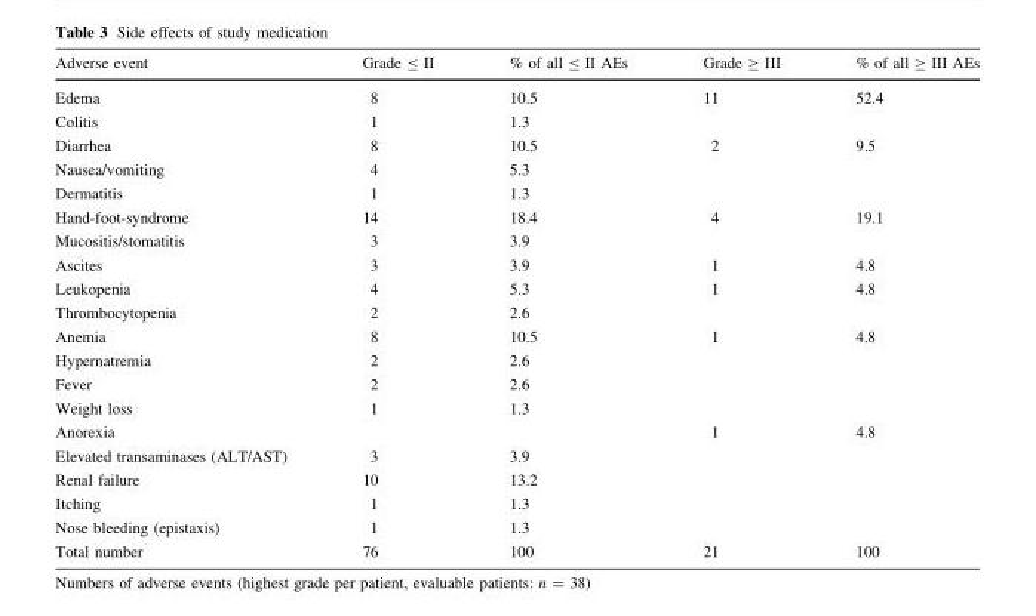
<table><thead><tr><td>Adverse event</td><td>Grade ≤ II</td><td>% of all ≤ II AEs</td><td>Grade ≥ III</td><td>% of all ≥ III AEs</td></tr></thead><tbody><tr><td>Edema</td><td>8</td><td>10.5</td><td>11</td><td>52.4</td></tr><tr><td>Colitis</td><td>1</td><td>1.3</td><td></td><td></td></tr><tr><td>Diarrhea</td><td>8</td><td>10.5</td><td>2</td><td>9.5</td></tr><tr><td>Nausea/vomiting</td><td>4</td><td>5.3</td><td></td><td></td></tr><tr><td>Dermatitis</td><td>1</td><td>1.3</td><td></td><td></td></tr><tr><td>Hand-foot-syndrome</td><td>14</td><td>18.4</td><td>4</td><td>19.1</td></tr><tr><td>Mucositis/stomatitis</td><td>3</td><td>3.9</td><td></td><td></td></tr><tr><td>Ascites</td><td>3</td><td>3.9</td><td>1</td><td>4.8</td></tr><tr><td>Leukopenia</td><td>4</td><td>5.3</td><td>1</td><td>4.8</td></tr><tr><td>Thrombocytopenia</td><td>2</td><td>2.6</td><td></td><td></td></tr><tr><td>Anemia</td><td>8</td><td>10.5</td><td>1</td><td>4.8</td></tr><tr><td>Hypernatremia</td><td>2</td><td>2.6</td><td></td><td></td></tr><tr><td>Fever</td><td>2</td><td>2.6</td><td></td><td></td></tr><tr><td>Weight loss</td><td>1</td><td>1.3</td><td></td><td></td></tr><tr><td>Anorexia</td><td></td><td></td><td>1</td><td>4.8</td></tr><tr><td>Elevated transaminases (ALT/AST)</td><td>3</td><td>3.9</td><td></td><td></td></tr><tr><td>Renal failure</td><td>10</td><td>13.2</td><td></td><td></td></tr><tr><td>Itching</td><td>1</td><td>1.3</td><td></td><td></td></tr><tr><td>Nose bleeding (epistaxis)</td><td>1</td><td>1.3</td><td></td><td></td></tr><tr><td>Total number</td><td>76</td><td>100</td><td>21</td><td>100</td></tr></tbody></table>